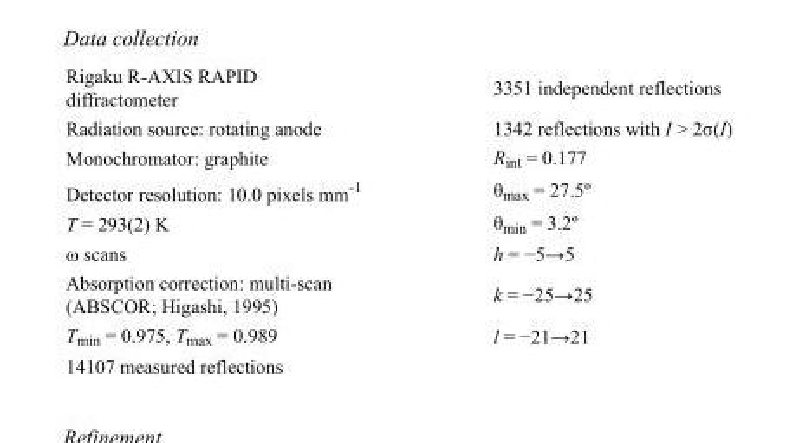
<table><tbody><tr><td>Rigaku R-AXIS RAPID diffractometer</td><td>3351 independent reflections</td></tr><tr><td>Radiation source: rotating anode</td><td>1342 reflections with I &gt; 2σ(I)</td></tr><tr><td>Monochromator: graphite</td><td>R<sub>int</sub> = 0.177</td></tr><tr><td>Detector resolution: 10.0 pixels mm<sup>-1</sup></td><td>θ<sub>max</sub> = 27.5º</td></tr><tr><td>T = 293(2) K</td><td>θ<sub>min</sub> = 3.2º</td></tr><tr><td>ω scans</td><td>h = −5→5</td></tr><tr><td>Absorption correction: multi-scan (ABSCOR; Higashi, 1995)</td><td>k = −25→25</td></tr><tr><td>T<sub>min</sub> = 0.975, T<sub>max</sub> = 0.989</td><td>l = −21→21</td></tr><tr><td>14107 measured reflections</td><td></td></tr></tbody></table>